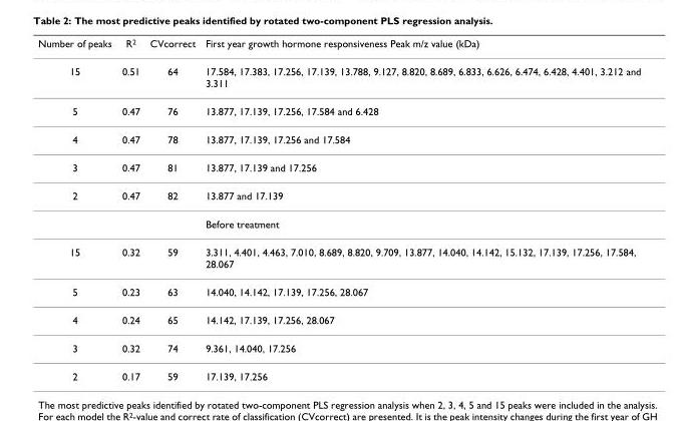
<table><thead><tr><td>Number of peaks</td><td>R<sup>2</sup></td><td>CVcorrect</td><td>First year growth hormone responsiveness Peak m/z value (kDa)</td></tr></thead><tbody><tr><td>15</td><td>0.51</td><td>64</td><td>17.584, 17.383, 17.256, 17.139, 13.788, 9.127, 8.820, 8.689, 6.833, 6.626, 6.474, 6.428, 4.401, 3.212 and 3.311</td></tr><tr><td>5</td><td>0.47</td><td>76</td><td>13.877, 17.139, 17.256, 17.584 and 6.428</td></tr><tr><td>4</td><td>0.47</td><td>78</td><td>13.877, 17.139, 17.256 and 17.584</td></tr><tr><td>3</td><td>0.47</td><td>81</td><td>13.877, 17.139 and 17.256</td></tr><tr><td rowspan="2">2</td><td>0.47</td><td>82</td><td>13.877 and 17.139</td></tr><tr><td></td><td></td><td>Before treatment</td></tr><tr><td>15</td><td>0.32</td><td>59</td><td>3.311, 4.401, 4.463, 7.010, 8.689, 8.820, 9.709, 13.877, 14.040, 14.142, 15.132, 17.139, 17.256, 17.584, 28.067</td></tr><tr><td>5</td><td>0.23</td><td>63</td><td>14.040, 14.142, 17.139, 17.256, 28.067</td></tr><tr><td>4</td><td>0.24</td><td>65</td><td>14.142, 17.139, 17.256, 28.067</td></tr><tr><td>3</td><td>0.32</td><td>74</td><td>9.361, 14.040, 17.256</td></tr><tr><td>2</td><td>0.17</td><td>59</td><td>17.139, 17.256</td></tr></tbody></table>